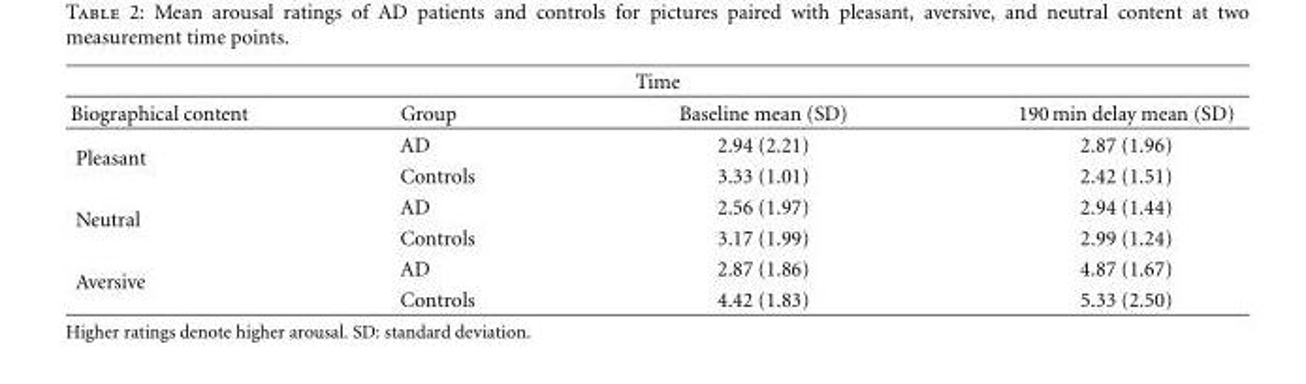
<table><thead><tr><td colspan="4">Time</td></tr><tr><td>Biographical content</td><td>Group</td><td>Baseline mean (SD)</td><td>190 min delay mean (SD)</td></tr></thead><tbody><tr><td rowspan="2">Pleasant</td><td>AD</td><td>2.94 (2.21)</td><td>2.87 (1.96)</td></tr><tr><td>Controls</td><td>3.33 (1.01)</td><td>2.42 (1.51)</td></tr><tr><td rowspan="2">Neutral</td><td>AD</td><td>2.56 (1.97)</td><td>2.94 (1.44)</td></tr><tr><td>Controls</td><td>3.17 (1.99)</td><td>2.99 (1.24)</td></tr><tr><td rowspan="2">Aversive</td><td>AD</td><td>2.87 (1.86)</td><td>4.87 (1.67)</td></tr><tr><td>Controls</td><td>4.42 (1.83)</td><td>5.33 (2.50)</td></tr></tbody></table>